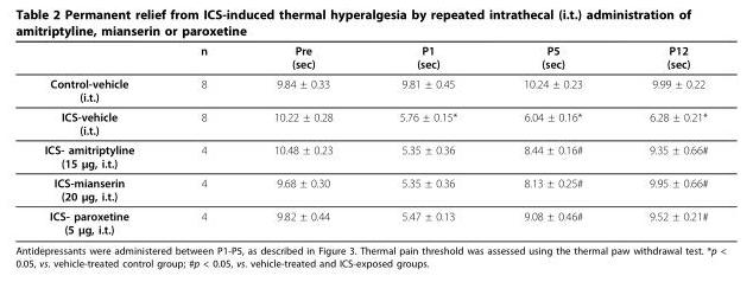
<table><thead><tr><td></td><td>n</td><td>Pre (sec)</td><td>P1 (sec)</td><td>P5 (sec)</td><td>P12 (sec)</td></tr></thead><tbody><tr><td>Control-vehicle (i.t.)</td><td>8</td><td>9.84 ± 0.33</td><td>9.81 ± 0.45</td><td>10.24 ± 0.23</td><td>9.99 ± 0.22</td></tr><tr><td>ICS-vehicle (i.t.)</td><td>8</td><td>10.22 ± 0.28</td><td>5.76 ± 0.15*</td><td>6.04 ± 0.16*</td><td>6.28 ± 0.21*</td></tr><tr><td>ICS- amitriptyline (15 μg, i.t.)</td><td>4</td><td>10.48 ± 0.23</td><td>5.35 ± 0.36</td><td>8.44 ± 0.16#</td><td>9.35 ± 0.66#</td></tr><tr><td>ICS-mianserin (20 μg, i.t.)</td><td>4</td><td>9.68 ± 0.30</td><td>5.35 ± 0.36</td><td>8.13 ± 0.25#</td><td>9.95 ± 0.66#</td></tr><tr><td>ICS- paroxetine (5 μg, i.t.)</td><td>4</td><td>9.82 ± 0.44</td><td>5.47 ± 0.13</td><td>9.08 ± 0.46#</td><td>9.52 ± 0.21#</td></tr></tbody></table>